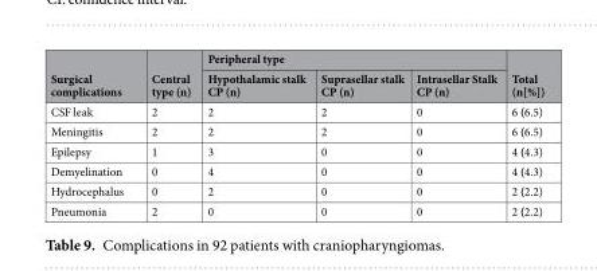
<table><thead><tr><td rowspan="2">Surgical complications</td><td rowspan="2">Central type (n)</td><td colspan="3">Peripheral type</td><td rowspan="2">Total (n[%])</td></tr><tr><td>Hypothalamic stalk CP (n)</td><td>Suprasellar stalk CP (n)</td><td>Intrasellar Stalk CP (n)</td></tr></thead><tbody><tr><td>CSF leak</td><td>2</td><td>2</td><td>2</td><td>0</td><td>6 (6.5)</td></tr><tr><td>Meningitis</td><td>2</td><td>2</td><td>2</td><td>0</td><td>6 (6.5)</td></tr><tr><td>Epilepsy</td><td>1</td><td>3</td><td>0</td><td>0</td><td>4 (4.3)</td></tr><tr><td>Demyelination</td><td>0</td><td>4</td><td>0</td><td>0</td><td>4 (4.3)</td></tr><tr><td>Hydrocephalus</td><td>0</td><td>2</td><td>0</td><td>0</td><td>2 (2.2)</td></tr><tr><td>Pneumonia</td><td>2</td><td>0</td><td>0</td><td>0</td><td>2 (2.2)</td></tr></tbody></table>